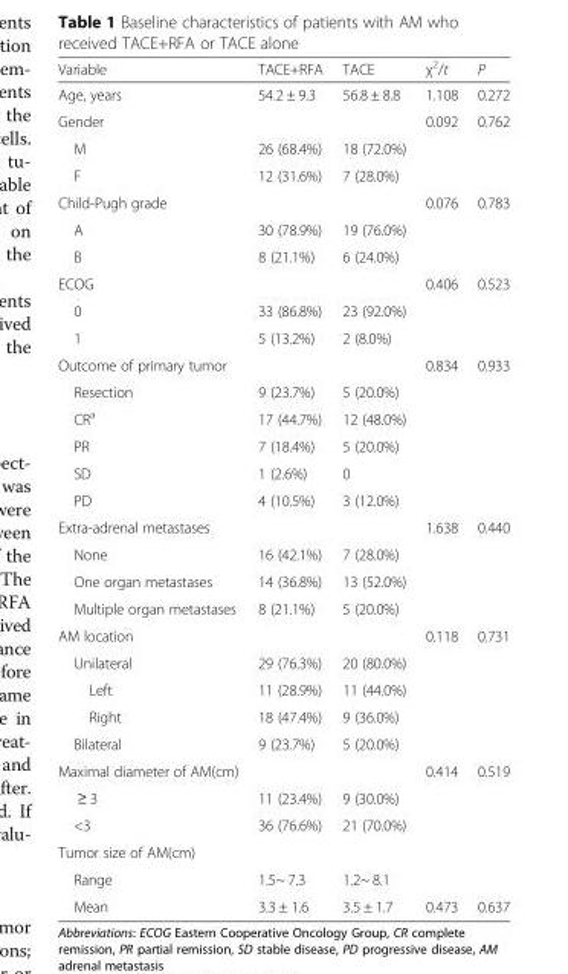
<table><thead><tr><td>Variable</td><td>TACE+RFA</td><td>TACE</td><td>χ<sup>2</sup>/t</td><td>P</td></tr></thead><tbody><tr><td>Age, years</td><td>54.2 ± 9.3</td><td>56.8 ± 8.8</td><td>1.108</td><td>0.272</td></tr><tr><td>Gender</td><td></td><td></td><td>0.092</td><td>0.762</td></tr><tr><td>M</td><td>26 (68.4%)</td><td>18 (72.0%)</td><td></td><td></td></tr><tr><td>F</td><td>12 (31.6%)</td><td>7 (28.0%)</td><td></td><td></td></tr><tr><td>Child-Pugh grade</td><td></td><td></td><td>0.076</td><td>0.783</td></tr><tr><td>A</td><td>30 (78.9%)</td><td>19 (76.0%)</td><td></td><td></td></tr><tr><td>B</td><td>8 (21.1%)</td><td>6 (24.0%)</td><td></td><td></td></tr><tr><td>ECOG</td><td></td><td></td><td>0.406</td><td>0.523</td></tr><tr><td>0</td><td>33 (86.8%)</td><td>23 (92.0%)</td><td></td><td></td></tr><tr><td>1</td><td>5 (13.2%)</td><td>2 (8.0%)</td><td></td><td></td></tr><tr><td>Outcome of primary tumor</td><td></td><td></td><td>0.834</td><td>0.933</td></tr><tr><td>Resection</td><td>9 (23.7%)</td><td>5 (20.0%)</td><td></td><td></td></tr><tr><td>CR<sup>a</sup></td><td>17 (44.7%)</td><td>12 (48.0%)</td><td></td><td></td></tr><tr><td>PR</td><td>7 (18.4%)</td><td>5 (20.0%)</td><td></td><td></td></tr><tr><td>SD</td><td>1 (2.6%)</td><td>0</td><td></td><td></td></tr><tr><td>PD</td><td>4 (10.5%)</td><td>3 (12.0%)</td><td></td><td></td></tr><tr><td>Extra-adrenal metastases</td><td></td><td></td><td>1.638</td><td>0.440</td></tr><tr><td>None</td><td>16 (42.1%)</td><td>7 (28.0%)</td><td></td><td></td></tr><tr><td>One organ metastases</td><td>14 (36.8%)</td><td>13 (52.0%)</td><td></td><td></td></tr><tr><td>Multiple organ metastases</td><td>8 (21.1%)</td><td>5 (20.0%)</td><td></td><td></td></tr><tr><td>AM location</td><td></td><td></td><td>0.118</td><td>0.731</td></tr><tr><td>Unilateral</td><td>29 (76.3%)</td><td>20 (80.0%)</td><td></td><td></td></tr><tr><td>Left</td><td>11 (28.9%)</td><td>11 (44.0%)</td><td></td><td></td></tr><tr><td>Right</td><td>18 (47.4%)</td><td>9 (36.0%)</td><td></td><td></td></tr><tr><td>Bilateral</td><td>9 (23.7%)</td><td>5 (20.0%)</td><td></td><td></td></tr><tr><td>Maximal diameter of AM(cm)</td><td></td><td></td><td>0.414</td><td>0.519</td></tr><tr><td>≥ 3</td><td>11 (23.4%)</td><td>9 (30.0%)</td><td></td><td></td></tr><tr><td>&lt;3</td><td>36 (76.6%)</td><td>21 (70.0%)</td><td></td><td></td></tr><tr><td colspan="5">Tumor size of AM(cm)</td></tr><tr><td>Range</td><td>1.5~ 7.3</td><td>1.2~ 8.1</td><td></td><td></td></tr><tr><td>Mean</td><td>3.3 ± 1.6</td><td>3.5 ± 1.7</td><td>0.473</td><td>0.637</td></tr></tbody></table>